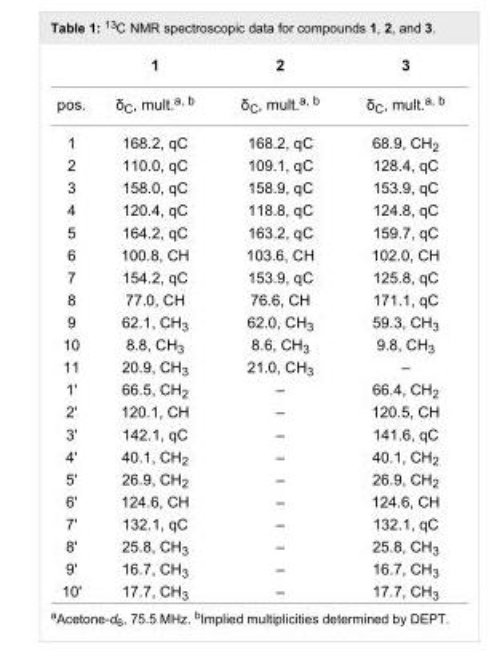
<table><thead><tr><td></td><td>1</td><td>2</td><td>3</td></tr></thead><tbody><tr><td>pos.</td><td>δ<sub>C</sub>, mult.<sup>a, b</sup></td><td>δ<sub>C</sub>, mult.<sup>a, b</sup></td><td>δ<sub>C</sub>, mult.<sup>a, b</sup></td></tr><tr><td>1</td><td>168.2, qC</td><td>168.2, qC</td><td>68.9, CH<sub>2</sub></td></tr><tr><td>2</td><td>110.0, qC</td><td>109.1, qC</td><td>128.4, qC</td></tr><tr><td>3</td><td>158.0, qC</td><td>158.9, qC</td><td>153.9, qC</td></tr><tr><td>4</td><td>120.4, qC</td><td>118.8, qC</td><td>124.8, qC</td></tr><tr><td>5</td><td>164.2, qC</td><td>163.2, qC</td><td>159.7, qC</td></tr><tr><td>6</td><td>100.8, CH</td><td>103.6, CH</td><td>102.0, CH</td></tr><tr><td>7</td><td>154.2, qC</td><td>153.9, qC</td><td>125.8, qC</td></tr><tr><td>8</td><td>77.0, CH</td><td>76.6, CH</td><td>171.1, qC</td></tr><tr><td>9</td><td>62.1, CH<sub>3</sub></td><td>62.0, CH<sub>3</sub></td><td>59.3, CH<sub>3</sub></td></tr><tr><td>10</td><td>8.8, CH<sub>3</sub></td><td>8.6, CH<sub>3</sub></td><td>9.8, CH<sub>3</sub></td></tr><tr><td>11</td><td>20.9, CH<sub>3</sub></td><td>21.0, CH<sub>3</sub></td><td>–</td></tr><tr><td>1&#x27;</td><td>66.5, CH<sub>2</sub></td><td>–</td><td>66.4, CH<sub>2</sub></td></tr><tr><td>2&#x27;</td><td>120.1, CH</td><td>–</td><td>120.5, CH</td></tr><tr><td>3&#x27;</td><td>142.1, qC</td><td>–</td><td>141.6, qC</td></tr><tr><td>4&#x27;</td><td>40.1, CH<sub>2</sub></td><td>–</td><td>40.1, CH<sub>2</sub></td></tr><tr><td>5&#x27;</td><td>26.9, CH<sub>2</sub></td><td>–</td><td>26.9, CH<sub>2</sub></td></tr><tr><td>6&#x27;</td><td>124.6, CH</td><td>–</td><td>124.6, CH</td></tr><tr><td>7&#x27;</td><td>132.1, qC</td><td>–</td><td>132.1, qC</td></tr><tr><td>8&#x27;</td><td>25.8, CH<sub>3</sub></td><td>–</td><td>25.8, CH<sub>3</sub></td></tr><tr><td>9&#x27;</td><td>16.7, CH<sub>3</sub></td><td>–</td><td>16.7, CH<sub>3</sub></td></tr><tr><td>10&#x27;</td><td>17.7, CH<sub>3</sub></td><td>–</td><td>17.7, CH<sub>3</sub></td></tr></tbody></table>